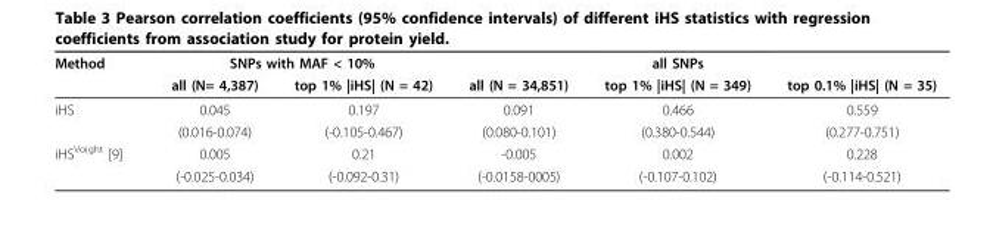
<table><thead><tr><td rowspan="2">Method</td><td colspan="2">SNPs with MAF &lt; 10%</td><td rowspan="2">all (N = 34,851)</td><td rowspan="2">all SNPs top 1% |iHS| (N = 349)</td><td rowspan="2">top 0.1% |iHS| (N = 35)</td></tr><tr><td>all (N= 4,387)</td><td>top 1% |iHS| (N = 42)</td></tr></thead><tbody><tr><td rowspan="2">iHS</td><td>0.045</td><td>0.197</td><td>0.091</td><td>0.466</td><td>0.559</td></tr><tr><td>(0.016-0.074)</td><td>(-0.105-0.467)</td><td>(0.080-0.101)</td><td>(0.380-0.544)</td><td>(0.277-0.751)</td></tr><tr><td rowspan="2">iHS<sup>Voight</sup> [9]</td><td>0.005</td><td>0.21</td><td>-0.005</td><td>0.002</td><td>0.228</td></tr><tr><td>(-0.025-0.034)</td><td>(-0.092-0.31)</td><td>(-0.0158-0005)</td><td>(-0.107-0.102)</td><td>(-0.114-0.521)</td></tr></tbody></table>